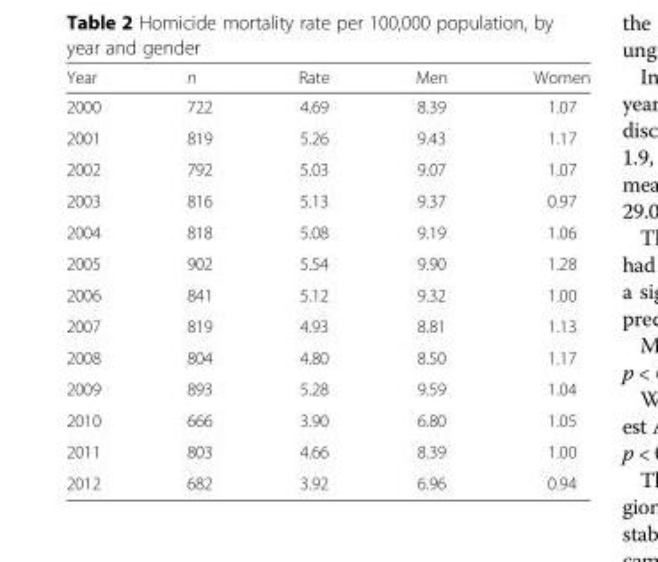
<table><thead><tr><td>Year</td><td>n</td><td>Rate</td><td>Men</td><td>Women</td></tr></thead><tbody><tr><td>2000</td><td>722</td><td>4.69</td><td>8.39</td><td>1.07</td></tr><tr><td>2001</td><td>819</td><td>5.26</td><td>9.43</td><td>1.17</td></tr><tr><td>2002</td><td>792</td><td>5.03</td><td>9.07</td><td>1.07</td></tr><tr><td>2003</td><td>816</td><td>5.13</td><td>9.37</td><td>0.97</td></tr><tr><td>2004</td><td>818</td><td>5.08</td><td>9.19</td><td>1.06</td></tr><tr><td>2005</td><td>902</td><td>5.54</td><td>9.90</td><td>1.28</td></tr><tr><td>2006</td><td>841</td><td>5.12</td><td>9.32</td><td>1.00</td></tr><tr><td>2007</td><td>819</td><td>4.93</td><td>8.81</td><td>1.13</td></tr><tr><td>2008</td><td>804</td><td>4.80</td><td>8.50</td><td>1.17</td></tr><tr><td>2009</td><td>893</td><td>5.28</td><td>9.59</td><td>1.04</td></tr><tr><td>2010</td><td>666</td><td>3.90</td><td>6.80</td><td>1.05</td></tr><tr><td>2011</td><td>803</td><td>4.66</td><td>8.39</td><td>1.00</td></tr><tr><td>2012</td><td>682</td><td>3.92</td><td>6.96</td><td>0.94</td></tr></tbody></table>